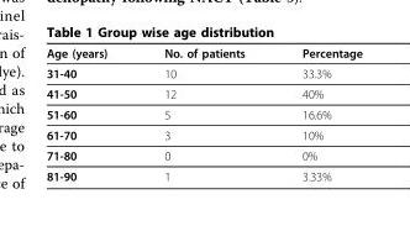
<table><thead><tr><td>Age (years)</td><td>No. of patients</td><td>Percentage</td></tr></thead><tbody><tr><td>31-40</td><td>10</td><td>33.3%</td></tr><tr><td>41-50</td><td>12</td><td>40%</td></tr><tr><td>51-60</td><td>5</td><td>16.6%</td></tr><tr><td>61-70</td><td>3</td><td>10%</td></tr><tr><td>71-80</td><td>0</td><td>0%</td></tr><tr><td>81-90</td><td>1</td><td>3.33%</td></tr></tbody></table>